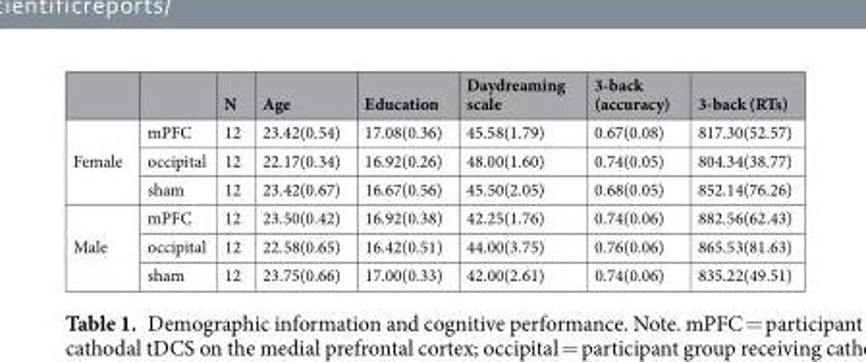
<table><thead><tr><td></td><td></td><td>N</td><td>Age</td><td>Education</td><td>Daydreaming scale</td><td>3-back (accuracy)</td><td>3-back (RTs)</td></tr></thead><tbody><tr><td rowspan="3">Female</td><td>mPFC</td><td>12</td><td>23.42(0.54)</td><td>17.08(0.36)</td><td>45.58(1.79)</td><td>0.67(0.08)</td><td>817.30(52.57)</td></tr><tr><td>occipital</td><td>12</td><td>22.17(0.34)</td><td>16.92(0.26)</td><td>48.00(1.60)</td><td>0.74(0.05)</td><td>804.34(38.77)</td></tr><tr><td>sham</td><td>12</td><td>23.42(0.67)</td><td>16.67(0.56)</td><td>45.50(2.05)</td><td>0.68(0.05)</td><td>852.14(76.26)</td></tr><tr><td rowspan="3">Male</td><td>mPFC</td><td>12</td><td>23.50(0.42)</td><td>16.92(0.38)</td><td>42.25(1.76)</td><td>0.74(0.06)</td><td>882.56(62.43)</td></tr><tr><td>occipital</td><td>12</td><td>22.58(0.65)</td><td>16.42(0.51)</td><td>44.00(3.75)</td><td>0.76(0.06)</td><td>865.53(81.63)</td></tr><tr><td>sham</td><td>12</td><td>23.75(0.66)</td><td>17.00(0.33)</td><td>42.00(2.61)</td><td>0.74(0.06)</td><td>835.22(49.51)</td></tr></tbody></table>